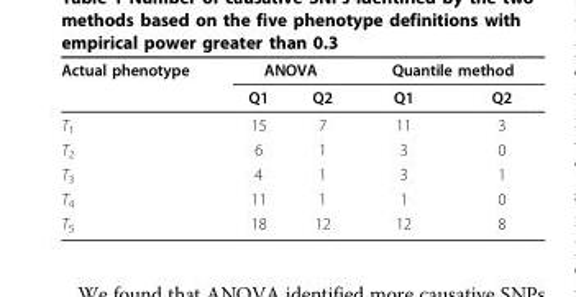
<table><thead><tr><td rowspan="2">Actual phenotype</td><td colspan="2">ANOVA</td><td colspan="2">Quantile method</td></tr><tr><td>Q1</td><td>Q2</td><td>Q1</td><td>Q2</td></tr></thead><tbody><tr><td>T<sub>1</sub></td><td>15</td><td>7</td><td>11</td><td>3</td></tr><tr><td>T<sub>2</sub></td><td>6</td><td>1</td><td>3</td><td>0</td></tr><tr><td>T<sub>3</sub></td><td>4</td><td>1</td><td>3</td><td>1</td></tr><tr><td>T<sub>4</sub></td><td>11</td><td>1</td><td>1</td><td>0</td></tr><tr><td>T<sub>5</sub></td><td>18</td><td>12</td><td>12</td><td>8</td></tr></tbody></table>